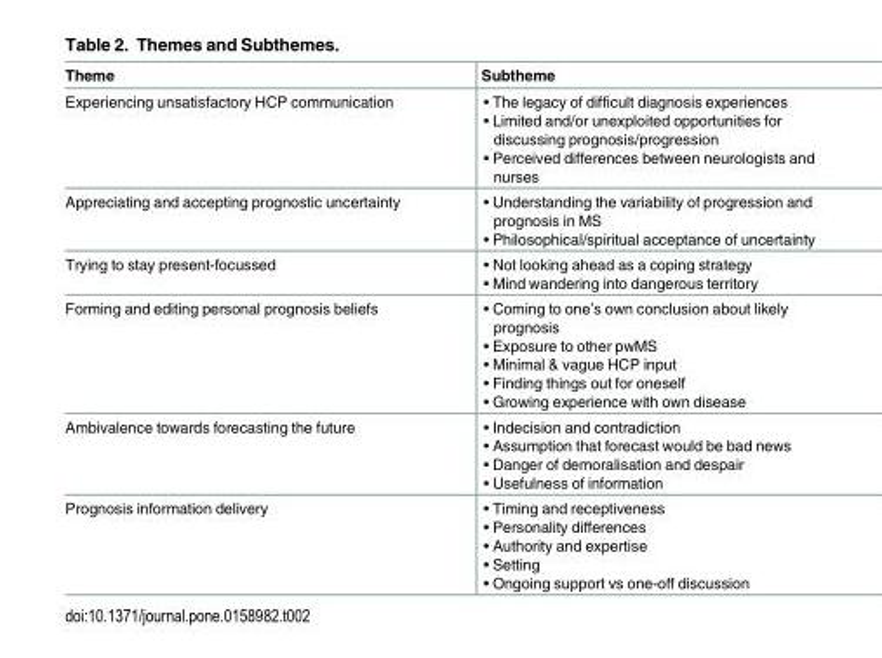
<table><thead><tr><td>Theme</td><td>Subtheme</td></tr></thead><tbody><tr><td>Experiencing unsatisfactory HCP communication</td><td>• The legacy of difficult diagnosis experiences • Limited and/or unexploited opportunities for discussing prognosis/progression • Perceived differences between neurologists and nurses</td></tr><tr><td>Appreciating and accepting prognostic uncertainty</td><td>• Understanding the variability of progression and prognosis in MS • Philosophical/spiritual acceptance of uncertainty</td></tr><tr><td>Trying to stay present-focussed</td><td>• Not looking ahead as a coping strategy • Mind wandering into dangerous territory</td></tr><tr><td>Forming and editing personal prognosis beliefs</td><td>• Coming to one’s own conclusion about likely prognosis • Exposure to other pwMS • Minimal &amp; vague HCP input • Finding things out for oneself • Growing experience with own disease</td></tr><tr><td>Ambivalence towards forecasting the future</td><td>• Indecision and contradiction • Assumption that forecast would be bad news • Danger of demoralisation and despair • Usefulness of information</td></tr><tr><td>Prognosis information delivery</td><td>• Timing and receptiveness • Personality differences • Authority and expertise • Setting • Ongoing support vs one-off discussion</td></tr></tbody></table>